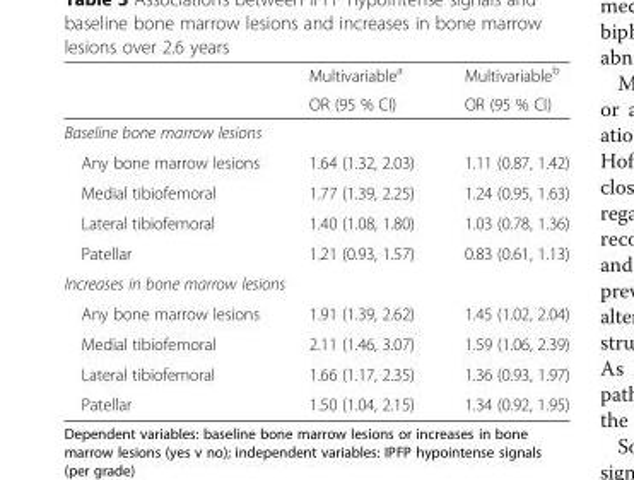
<table><thead><tr><td rowspan="2"></td><td rowspan="2">Multivariable<sup>a</sup> OR (95 % CI)</td><td rowspan="2">Multivariable<sup>b</sup> OR (95 % CI)</td></tr><tr></tr></thead><tbody><tr><td colspan="3">Baseline bone marrow lesions</td></tr><tr><td>Any bone marrow lesions</td><td>1.64 (1.32, 2.03)</td><td>1.11 (0.87, 1.42)</td></tr><tr><td>Medial tibiofemoral</td><td>1.77 (1.39, 2.25)</td><td>1.24 (0.95, 1.63)</td></tr><tr><td>Lateral tibiofemoral</td><td>1.40 (1.08, 1.80)</td><td>1.03 (0.78, 1.36)</td></tr><tr><td>Patellar</td><td>1.21 (0.93, 1.57)</td><td>0.83 (0.61, 1.13)</td></tr><tr><td colspan="3">Increases in bone marrow lesions</td></tr><tr><td>Any bone marrow lesions</td><td>1.91 (1.39, 2.62)</td><td>1.45 (1.02, 2.04)</td></tr><tr><td>Medial tibiofemoral</td><td>2.11 (1.46, 3.07)</td><td>1.59 (1.06, 2.39)</td></tr><tr><td>Lateral tibiofemoral</td><td>1.66 (1.17, 2.35)</td><td>1.36 (0.93, 1.97)</td></tr><tr><td>Patellar</td><td>1.50 (1.04, 2.15)</td><td>1.34 (0.92, 1.95)</td></tr></tbody></table>